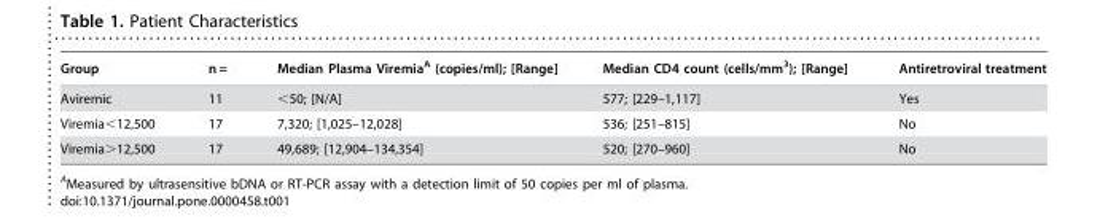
<table><thead><tr><td>Group</td><td>n =</td><td>Median Plasma Viremia<sup>A</sup> (copies/ml); [Range]</td><td>Median CD4 count (cells/mm<sup>3</sup>); [Range]</td><td>Antiretroviral treatment</td></tr></thead><tbody><tr><td>Aviremic</td><td>11</td><td>&lt;50; [N/A]</td><td>577; [229–1,117]</td><td>Yes</td></tr><tr><td>Viremia&lt;12,500</td><td>17</td><td>7,320; [1,025–12,028]</td><td>536; [251–815]</td><td>No</td></tr><tr><td>Viremia&gt;12,500</td><td>17</td><td>49,689; [12,904–134,354]</td><td>520; [270–960]</td><td>No</td></tr></tbody></table>